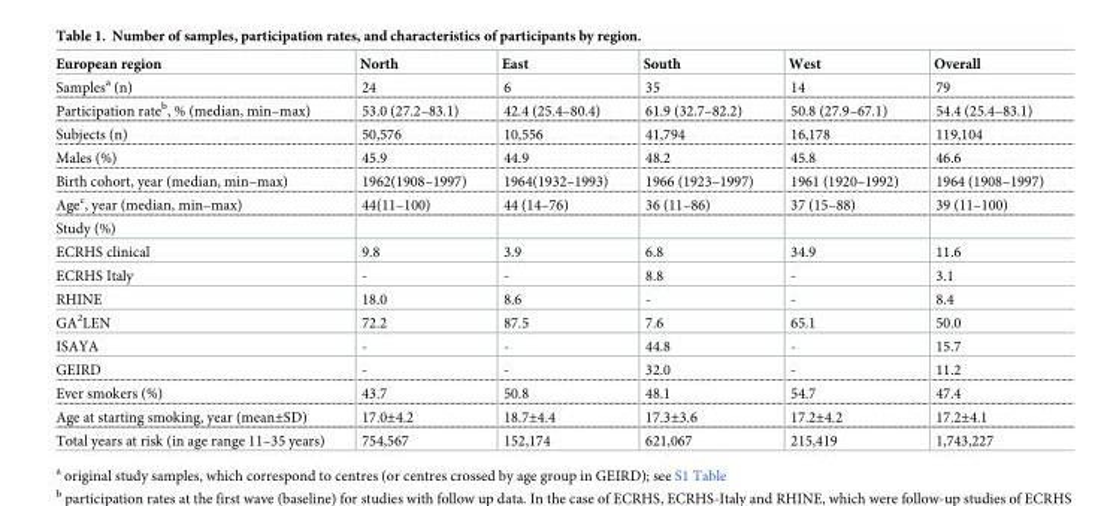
<table><thead><tr><td>European region</td><td>North</td><td>East</td><td>South</td><td>West</td><td>Overall</td></tr></thead><tbody><tr><td>Samples<sup>a</sup> (n)</td><td>24</td><td>6</td><td>35</td><td>14</td><td>79</td></tr><tr><td>Participation rate<sup>b</sup>, % (median, min–max)</td><td>53.0 (27.2–83.1)</td><td>42.4 (25.4–80.4)</td><td>61.9 (32.7–82.2)</td><td>50.8 (27.9–67.1)</td><td>54.4 (25.4–83.1)</td></tr><tr><td>Subjects (n)</td><td>50,576</td><td>10,556</td><td>41,794</td><td>16,178</td><td>119,104</td></tr><tr><td>Males (%)</td><td>45.9</td><td>44.9</td><td>48.2</td><td>45.8</td><td>46.6</td></tr><tr><td>Birth cohort, year (median, min–max)</td><td>1962(1908–1997)</td><td>1964(1932–1993)</td><td>1966 (1923–1997)</td><td>1961 (1920–1992)</td><td>1964 (1908–1997)</td></tr><tr><td>Age<sup>c</sup>, year (median, min–max)</td><td>44(11–100)</td><td>44 (14–76)</td><td>36 (11–86)</td><td>37 (15–88)</td><td>39 (11–100)</td></tr><tr><td colspan="6">Study (%)</td></tr><tr><td>ECRHS clinical</td><td>9.8</td><td>3.9</td><td>6.8</td><td>34.9</td><td>11.6</td></tr><tr><td>ECRHS Italy</td><td>-</td><td>-</td><td>8.8</td><td>-</td><td>3.1</td></tr><tr><td>RHINE</td><td>18.0</td><td>8.6</td><td>-</td><td>-</td><td>8.4</td></tr><tr><td>GA<sup>2</sup>LEN</td><td>72.2</td><td>87.5</td><td>7.6</td><td>65.1</td><td>50.0</td></tr><tr><td>ISAYA</td><td>-</td><td>-</td><td>44.8</td><td>-</td><td>15.7</td></tr><tr><td>GEIRD</td><td>-</td><td>-</td><td>32.0</td><td>-</td><td>11.2</td></tr><tr><td>Ever smokers (%)</td><td>43.7</td><td>50.8</td><td>48.1</td><td>54.7</td><td>47.4</td></tr><tr><td>Age at starting smoking, year (mean±SD)</td><td>17.0±4.2</td><td>18.7±4.4</td><td>17.3±3.6</td><td>17.2±4.2</td><td>17.2±4.1</td></tr><tr><td>Total years at risk (in age range 11–35 years)</td><td>754,567</td><td>152,174</td><td>621,067</td><td>215,419</td><td>1,743,227</td></tr></tbody></table>